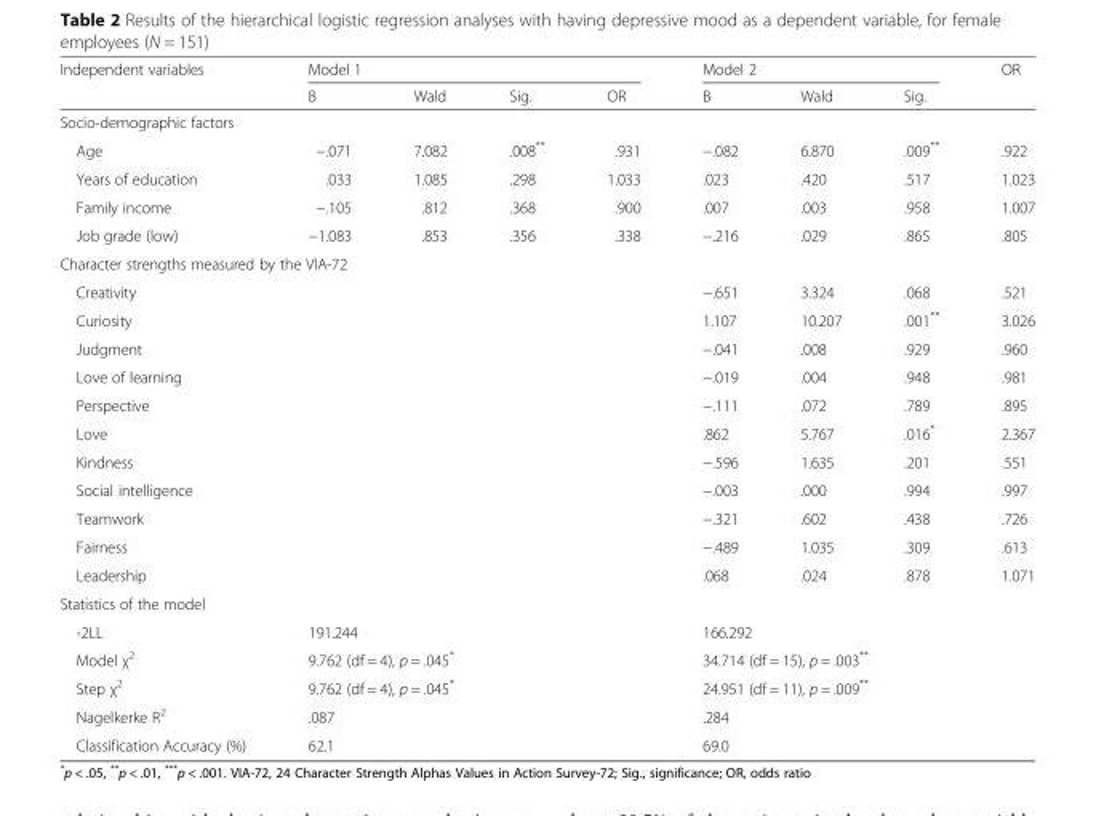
<table><thead><tr><td rowspan="2">Independent variables</td><td colspan="4">Model 1</td><td colspan="3">Model 2</td><td rowspan="2">OR</td></tr><tr><td>B</td><td>Wald</td><td>Sig.</td><td>OR</td><td>B</td><td>Wald</td><td>Sig.</td></tr></thead><tbody><tr><td colspan="9">Socio-demographic factors</td></tr><tr><td>Age</td><td>−.071</td><td>7.082</td><td>.008**</td><td>.931</td><td>−.082</td><td>6.870</td><td>.009**</td><td>.922</td></tr><tr><td>Years of education</td><td>.033</td><td>1.085</td><td>.298</td><td>1.033</td><td>.023</td><td>.420</td><td>.517</td><td>1.023</td></tr><tr><td>Family income</td><td>−.105</td><td>.812</td><td>.368</td><td>.900</td><td>.007</td><td>.003</td><td>.958</td><td>1.007</td></tr><tr><td>Job grade (low)</td><td>−1.083</td><td>.853</td><td>.356</td><td>.338</td><td>−.216</td><td>.029</td><td>.865</td><td>.805</td></tr><tr><td colspan="9">Character strengths measured by the VIA-72</td></tr><tr><td>Creativity</td><td></td><td></td><td></td><td></td><td>−.651</td><td>3.324</td><td>.068</td><td>.521</td></tr><tr><td>Curiosity</td><td></td><td></td><td></td><td></td><td>1.107</td><td>10.207</td><td>.001**</td><td>3.026</td></tr><tr><td>Judgment</td><td></td><td></td><td></td><td></td><td>−.041</td><td>.008</td><td>.929</td><td>.960</td></tr><tr><td>Love of learning</td><td></td><td></td><td></td><td></td><td>−.019</td><td>.004</td><td>.948</td><td>.981</td></tr><tr><td>Perspective</td><td></td><td></td><td></td><td></td><td>−.111</td><td>.072</td><td>.789</td><td>.895</td></tr><tr><td>Love</td><td></td><td></td><td></td><td></td><td>.862</td><td>5.767</td><td>.016*</td><td>2.367</td></tr><tr><td>Kindness</td><td></td><td></td><td></td><td></td><td>−.596</td><td>1.635</td><td>.201</td><td>.551</td></tr><tr><td>Social intelligence</td><td></td><td></td><td></td><td></td><td>−.003</td><td>.000</td><td>.994</td><td>.997</td></tr><tr><td>Teamwork</td><td></td><td></td><td></td><td></td><td>−.321</td><td>.602</td><td>.438</td><td>.726</td></tr><tr><td>Fairness</td><td></td><td></td><td></td><td></td><td>−.489</td><td>1.035</td><td>.309</td><td>.613</td></tr><tr><td>Leadership</td><td></td><td></td><td></td><td></td><td>.068</td><td>.024</td><td>.878</td><td>1.071</td></tr><tr><td colspan="9">Statistics of the model</td></tr><tr><td>-2LL</td><td colspan="4">191.244</td><td colspan="4">166.292</td></tr><tr><td>Model χ<sup>2</sup></td><td colspan="4">9.762 (df = 4), p = .045*</td><td colspan="4">34.714 (df = 15), p = .003**</td></tr><tr><td>Step χ<sup>2</sup></td><td colspan="4">9.762 (df = 4), p = .045*</td><td colspan="4">24.951 (df = 11), p = .009**</td></tr><tr><td>Nagelkerke R<sup>2</sup></td><td colspan="4">.087</td><td colspan="4">.284</td></tr><tr><td>Classification Accuracy (%)</td><td colspan="4">62.1</td><td colspan="4">69.0</td></tr></tbody></table>